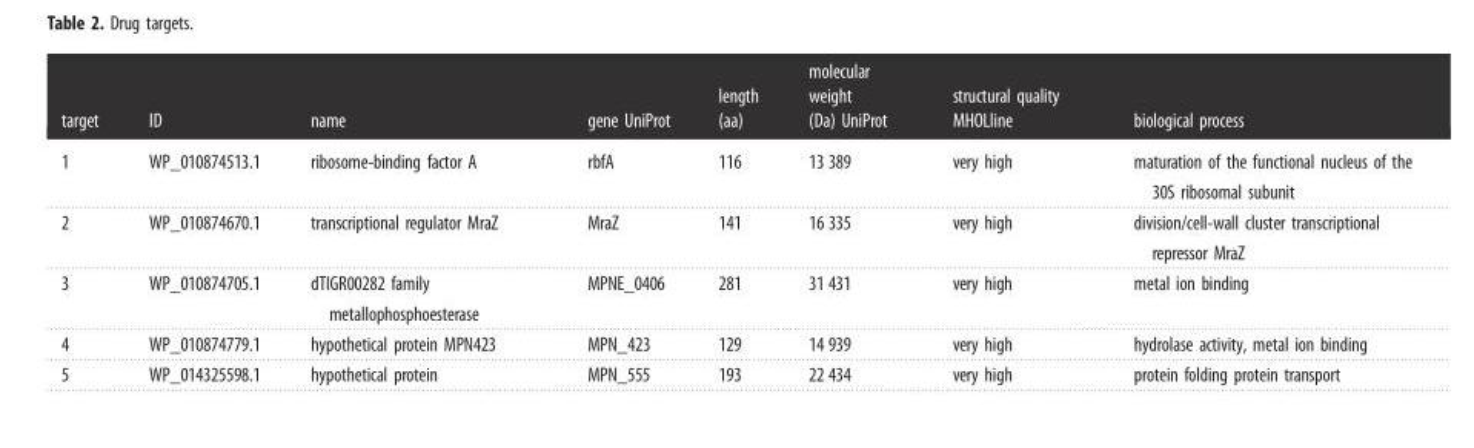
<table><thead><tr><td>target</td><td>ID</td><td>name</td><td>gene UniProt</td><td>length (aa)</td><td>molecular weight (Da) UniProt</td><td>structural quality MHOLline</td><td>biological process</td></tr></thead><tbody><tr><td>1</td><td>WP_010874513.1</td><td>ribosome-binding factor A</td><td>rbfA</td><td>116</td><td>13 389</td><td>very high</td><td>maturation of the functional nucleus of the 30S ribosomal subunit</td></tr><tr><td>2</td><td>WP_010874670.1</td><td>transcriptional regulator MraZ</td><td>MraZ</td><td>141</td><td>16 335</td><td>very high</td><td>division/cell-wall cluster transcriptional repressor MraZ</td></tr><tr><td>3</td><td>WP_010874705.1</td><td>dTIGR00282 family metallophosphoesterase</td><td>MPNE_0406</td><td>281</td><td>31 431</td><td>very high</td><td>metal ion binding</td></tr><tr><td>4</td><td>WP_010874779.1</td><td>hypothetical protein MPN423</td><td>MPN_423</td><td>129</td><td>14 939</td><td>very high</td><td>hydrolase activity, metal ion binding</td></tr><tr><td>5</td><td>WP_014325598.1</td><td>hypothetical protein</td><td>MPN_555</td><td>193</td><td>22 434</td><td>very high</td><td>protein folding protein transport</td></tr></tbody></table>